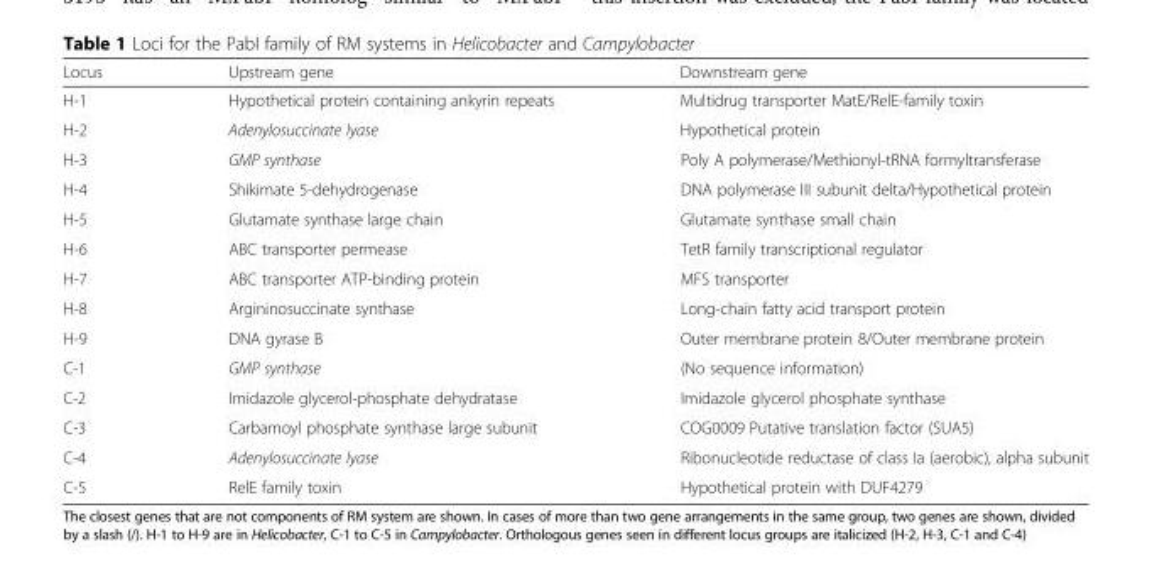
<table><thead><tr><td>Locus</td><td>Upstream gene</td><td>Downstream gene</td></tr></thead><tbody><tr><td>H-1</td><td>Hypothetical protein containing ankyrin repeats</td><td>Multidrug transporter MatE/RelE-family toxin</td></tr><tr><td>H-2</td><td>Adenylosuccinate lyase</td><td>Hypothetical protein</td></tr><tr><td>H-3</td><td>GMP synthase</td><td>Poly A polymerase/Methionyl-tRNA formyltransferase</td></tr><tr><td>H-4</td><td>Shikimate 5-dehydrogenase</td><td>DNA polymerase III subunit delta/Hypothetical protein</td></tr><tr><td>H-5</td><td>Glutamate synthase large chain</td><td>Glutamate synthase small chain</td></tr><tr><td>H-6</td><td>ABC transporter permease</td><td>TetR family transcriptional regulator</td></tr><tr><td>H-7</td><td>ABC transporter ATP-binding protein</td><td>MFS transporter</td></tr><tr><td>H-8</td><td>Argininosuccinate synthase</td><td>Long-chain fatty acid transport protein</td></tr><tr><td>H-9</td><td>DNA gyrase B</td><td>Outer membrane protein 8/Outer membrane protein</td></tr><tr><td>C-1</td><td>GMP synthase</td><td>(No sequence information)</td></tr><tr><td>C-2</td><td>Imidazole glycerol-phosphate dehydratase</td><td>Imidazole glycerol phosphate synthase</td></tr><tr><td>C-3</td><td>Carbamoyl phosphate synthase large subunit</td><td>COG0009 Putative translation factor (SUA5)</td></tr><tr><td>C-4</td><td>Adenylosuccinate lyase</td><td>Ribonucleotide reductase of class Ia (aerobic), alpha subunit</td></tr><tr><td>C-5</td><td>RelE family toxin</td><td>Hypothetical protein with DUF4279</td></tr></tbody></table>